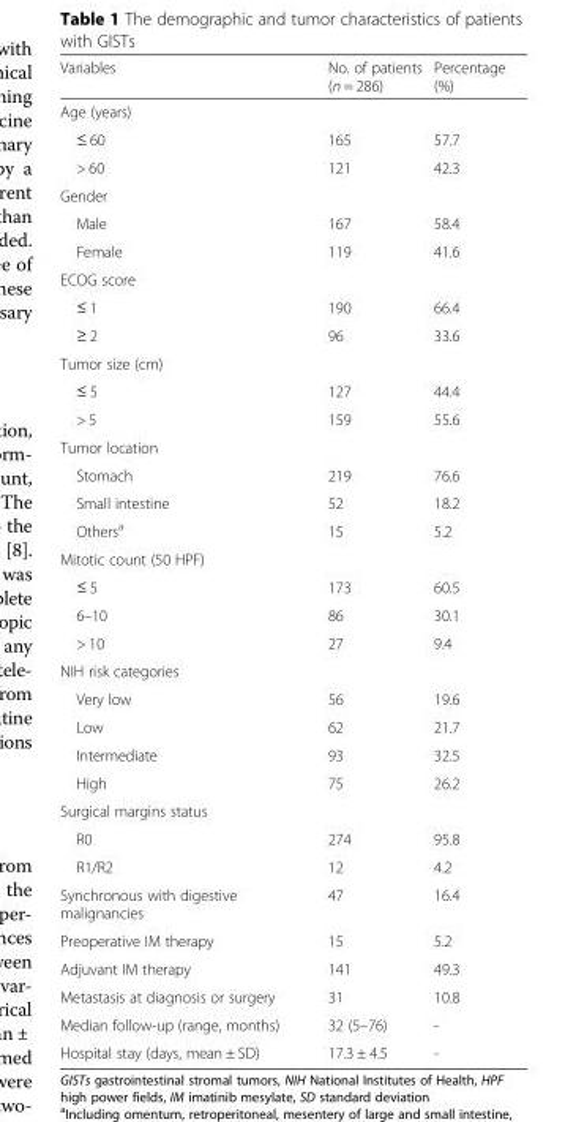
<table><thead><tr><td>Variables</td><td>No. of patients (n = 286)</td><td>Percentage (%)</td></tr></thead><tbody><tr><td colspan="3">Age (years)</td></tr><tr><td>≤ 60</td><td>165</td><td>57.7</td></tr><tr><td>&gt; 60</td><td>121</td><td>42.3</td></tr><tr><td colspan="3">Gender</td></tr><tr><td>Male</td><td>167</td><td>58.4</td></tr><tr><td>Female</td><td>119</td><td>41.6</td></tr><tr><td colspan="3">ECOG score</td></tr><tr><td>≤ 1</td><td>190</td><td>66.4</td></tr><tr><td>≥ 2</td><td>96</td><td>33.6</td></tr><tr><td colspan="3">Tumor size (cm)</td></tr><tr><td>≤ 5</td><td>127</td><td>44.4</td></tr><tr><td>&gt; 5</td><td>159</td><td>55.6</td></tr><tr><td colspan="3">Tumor location</td></tr><tr><td>Stomach</td><td>219</td><td>76.6</td></tr><tr><td>Small intestine</td><td>52</td><td>18.2</td></tr><tr><td>Others<sup>a</sup></td><td>15</td><td>5.2</td></tr><tr><td colspan="3">Mitotic count (50 HPF)</td></tr><tr><td>≤ 5</td><td>173</td><td>60.5</td></tr><tr><td>6–10</td><td>86</td><td>30.1</td></tr><tr><td>&gt; 10</td><td>27</td><td>9.4</td></tr><tr><td colspan="3">NIH risk categories</td></tr><tr><td>Very low</td><td>56</td><td>19.6</td></tr><tr><td>Low</td><td>62</td><td>21.7</td></tr><tr><td>Intermediate</td><td>93</td><td>32.5</td></tr><tr><td>High</td><td>75</td><td>26.2</td></tr><tr><td colspan="3">Surgical margins status</td></tr><tr><td>R0</td><td>274</td><td>95.8</td></tr><tr><td>R1/R2</td><td>12</td><td>4.2</td></tr><tr><td>Synchronous with digestive malignancies</td><td>47</td><td>16.4</td></tr><tr><td>Preoperative IM therapy</td><td>15</td><td>5.2</td></tr><tr><td>Adjuvant IM therapy</td><td>141</td><td>49.3</td></tr><tr><td>Metastasis at diagnosis or surgery</td><td>31</td><td>10.8</td></tr><tr><td>Median follow-up (range, months)</td><td>32 (5–76)</td><td>-</td></tr><tr><td>Hospital stay (days, mean ± SD)</td><td>17.3 ± 4.5</td><td>-</td></tr></tbody></table>